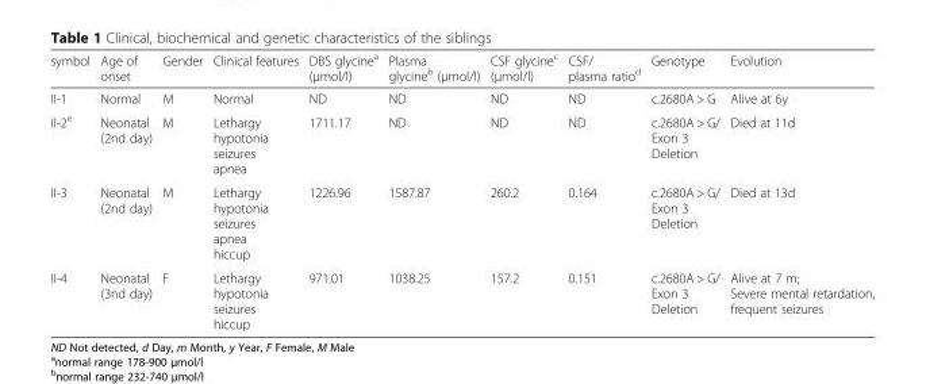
<table><thead><tr><td>symbol</td><td>Age of onset</td><td>Gender</td><td>Clinical features</td><td>DBS glycine<sup>a</sup> (μmol/l)</td><td>Plasma glycine<sup>b</sup> (μmol/l)</td><td>CSF glycine<sup>c</sup> (μmol/l)</td><td>CSF/ plasma ratio<sup>d</sup></td><td>Genotype</td><td>Evolution</td></tr></thead><tbody><tr><td>II-1</td><td>Normal</td><td>M</td><td>Normal</td><td>ND</td><td>ND</td><td>ND</td><td>ND</td><td>c.2680A &gt; G</td><td>Alive at 6y</td></tr><tr><td>II-2<sup>e</sup></td><td>Neonatal (2nd day)</td><td>M</td><td>Lethargy hypotonia seizures apnea</td><td>1711.17</td><td>ND</td><td>ND</td><td>ND</td><td>c.2680A &gt; G/ Exon 3 Deletion</td><td>Died at 11d</td></tr><tr><td>II-3</td><td>Neonatal (2nd day)</td><td>M</td><td>Lethargy hypotonia seizures apnea hiccup</td><td>1226.96</td><td>1587.87</td><td>260.2</td><td>0.164</td><td>c.2680A &gt; G/ Exon 3 Deletion</td><td>Died at 13d</td></tr><tr><td>II-4</td><td>Neonatal (3nd day)</td><td>F</td><td>Lethargy hypotonia seizures hiccup</td><td>971.01</td><td>1038.25</td><td>157.2</td><td>0.151</td><td>c.2680A &gt; G/ Exon 3 Deletion</td><td>Alive at 7 m; Severe mental retardation, frequent seizures</td></tr></tbody></table>